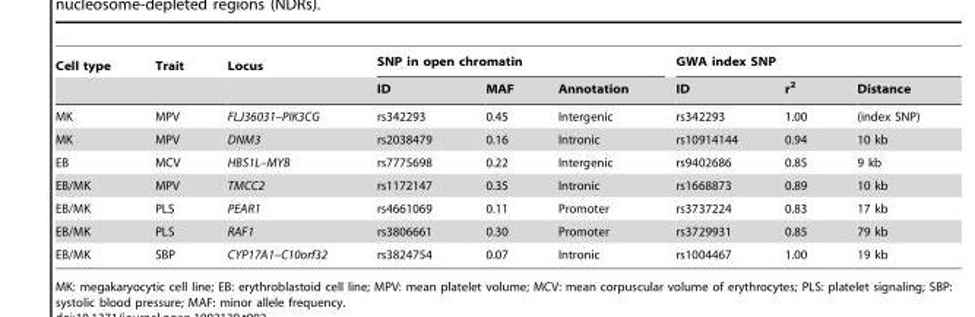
<table><thead><tr><td rowspan="2">Cell type</td><td rowspan="2">Trait</td><td rowspan="2">Locus</td><td colspan="3">SNP in open chromatin</td><td colspan="3">GWA index SNP</td></tr><tr><td>ID</td><td>MAF</td><td>Annotation</td><td>ID</td><td>r<sup>2</sup></td><td>Distance</td></tr></thead><tbody><tr><td>MK</td><td>MPV</td><td>FLJ36031–PIK3CG</td><td>rs342293</td><td>0.45</td><td>Intergenic</td><td>rs342293</td><td>1.00</td><td>(index SNP)</td></tr><tr><td>MK</td><td>MPV</td><td>DNM3</td><td>rs2038479</td><td>0.16</td><td>Intronic</td><td>rs10914144</td><td>0.94</td><td>10 kb</td></tr><tr><td>EB</td><td>MCV</td><td>HBS1L–MYB</td><td>rs7775698</td><td>0.22</td><td>Intergenic</td><td>rs9402686</td><td>0.85</td><td>9 kb</td></tr><tr><td>EB/MK</td><td>MPV</td><td>TMCC2</td><td>rs1172147</td><td>0.35</td><td>Intronic</td><td>rs1668873</td><td>0.89</td><td>10 kb</td></tr><tr><td>EB/MK</td><td>PLS</td><td>PEAR1</td><td>rs4661069</td><td>0.11</td><td>Promoter</td><td>rs3737224</td><td>0.83</td><td>17 kb</td></tr><tr><td>EB/MK</td><td>PLS</td><td>RAF1</td><td>rs3806661</td><td>0.30</td><td>Promoter</td><td>rs3729931</td><td>0.85</td><td>79 kb</td></tr><tr><td>EB/MK</td><td>SBP</td><td>CYP17A1–C10orf32</td><td>rs3824754</td><td>0.07</td><td>Intronic</td><td>rs1004467</td><td>1.00</td><td>19 kb</td></tr></tbody></table>